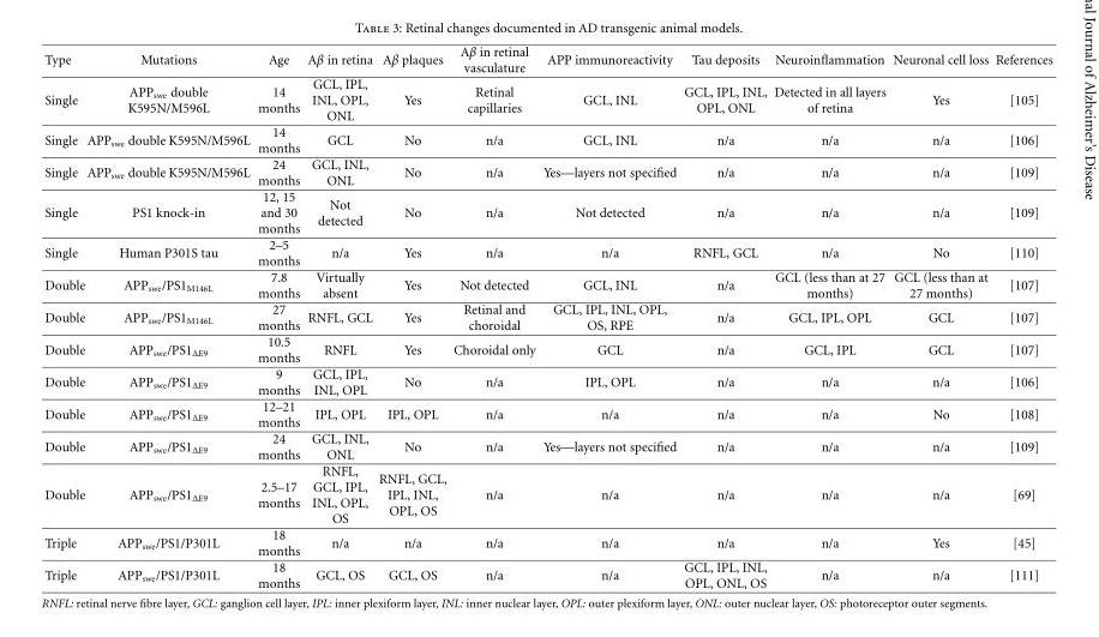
<table><thead><tr><td>Type</td><td>Mutations</td><td>Age</td><td>Aβ in retina</td><td>Aβ plaques</td><td>Aβ in retinal vasculature</td><td>APP immunoreactivity</td><td>Tau deposits</td><td>Neuroinflammation</td><td>Neuronal cell loss</td><td>References</td></tr></thead><tbody><tr><td>Single</td><td>APP<sub>swe</sub> double K595N/M596L</td><td>14 months</td><td>GCL, IPL, INL, OPL, ONL</td><td>Yes</td><td>Retinal capillaries</td><td>GCL, INL</td><td>GCL, IPL, INL, OPL, ONL</td><td>Detected in all layers of retina</td><td>Yes</td><td>[105]</td></tr><tr><td>Single</td><td>APP<sub>swe</sub> double K595N/M596L</td><td>14 months</td><td>GCL</td><td>No</td><td>n/a</td><td>GCL, INL</td><td>n/a</td><td>n/a</td><td>n/a</td><td>[106]</td></tr><tr><td>Single</td><td>APP<sub>swe</sub> double K595N/M596L</td><td>24 months</td><td>GCL, INL, ONL</td><td>No</td><td>n/a</td><td>Yes—layers not specified</td><td>n/a</td><td>n/a</td><td>n/a</td><td>[109]</td></tr><tr><td>Single</td><td>PS1 knock-in</td><td>12, 15 and 30 months</td><td>Not detected</td><td>No</td><td>n/a</td><td>Not detected</td><td>n/a</td><td>n/a</td><td>n/a</td><td>[109]</td></tr><tr><td>Single</td><td>Human P301S tau</td><td>2–5 months</td><td>n/a</td><td>Yes</td><td>n/a</td><td>n/a</td><td>RNFL, GCL</td><td>n/a</td><td>No</td><td>[110]</td></tr><tr><td>Double</td><td>APP<sub>swe</sub>/PS1<sub>M146L</sub></td><td>7.8 months</td><td>Virtually absent</td><td>Yes</td><td>Not detected</td><td>GCL, INL</td><td>n/a</td><td>GCL (less than at 27 months)</td><td>GCL (less than at 27 months)</td><td>[107]</td></tr><tr><td>Double</td><td>APP<sub>swe</sub>/PS1<sub>M146L</sub></td><td>27 months</td><td>RNFL, GCL</td><td>Yes</td><td>Retinal and choroidal</td><td>GCL, IPL, INL, OPL, OS, RPE</td><td>n/a</td><td>GCL, IPL, OPL</td><td>GCL</td><td>[107]</td></tr><tr><td>Double</td><td>APP<sub>swe</sub>/PS1<sub>ΔE9</sub></td><td>10.5 months</td><td>RNFL</td><td>Yes</td><td>Choroidal only</td><td>GCL</td><td>n/a</td><td>GCL, IPL</td><td>GCL</td><td>[107]</td></tr><tr><td>Double</td><td>APP<sub>swe</sub>/PS1<sub>ΔE9</sub></td><td>9 months</td><td>GCL, IPL, INL, OPL</td><td>No</td><td>n/a</td><td>IPL, OPL</td><td>n/a</td><td>n/a</td><td>n/a</td><td>[106]</td></tr><tr><td>Double</td><td>APP<sub>swe</sub>/PS1<sub>ΔE9</sub></td><td>12–21 months</td><td>IPL, OPL</td><td>IPL, OPL</td><td>n/a</td><td>n/a</td><td>n/a</td><td>n/a</td><td>No</td><td>[108]</td></tr><tr><td>Double</td><td>APP<sub>swe</sub>/PS1<sub>ΔE9</sub></td><td>24 months</td><td>GCL, INL, ONL</td><td>No</td><td>n/a</td><td>Yes—layers not specified</td><td>n/a</td><td>n/a</td><td>n/a</td><td>[109]</td></tr><tr><td>Double</td><td>APP<sub>swe</sub>/PS1<sub>ΔE9</sub></td><td>2.5–17 months</td><td>RNFL, GCL, IPL, INL, OPL, OS</td><td>RNFL, GCL, IPL, INL, OPL, OS</td><td>n/a</td><td>n/a</td><td>n/a</td><td>n/a</td><td>n/a</td><td>[69]</td></tr><tr><td>Triple</td><td>APP<sub>swe</sub>/PS1/P301L</td><td>18 months</td><td>n/a</td><td>n/a</td><td>n/a</td><td>n/a</td><td>n/a</td><td>n/a</td><td>Yes</td><td>[45]</td></tr><tr><td>Triple</td><td>APP<sub>swe</sub>/PS1/P301L</td><td>18 months</td><td>GCL, OS</td><td>GCL, OS</td><td>n/a</td><td>n/a</td><td>GCL, IPL, INL, OPL, ONL, OS</td><td>n/a</td><td>n/a</td><td>[111]</td></tr></tbody></table>